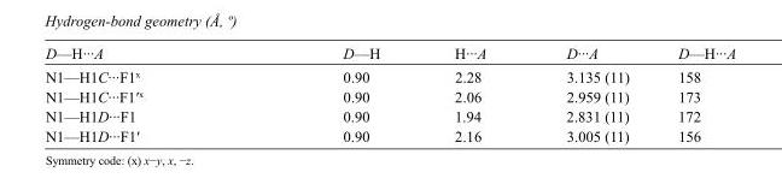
<table><tbody><tr><td>D—H···A</td><td>D—H</td><td>H···A</td><td>D···A</td><td>D—H···A</td></tr><tr><td>N1—H1C···F1<sup>x</sup></td><td>0.90</td><td>2.28</td><td>3.135 (11)</td><td>158</td></tr><tr><td>N1—H1C···F1′<sup>x</sup></td><td>0.90</td><td>2.06</td><td>2.959 (11)</td><td>173</td></tr><tr><td>N1—H1D···F1</td><td>0.90</td><td>1.94</td><td>2.831 (11)</td><td>172</td></tr><tr><td>N1—H1D···F1′</td><td>0.90</td><td>2.16</td><td>3.005 (11)</td><td>156</td></tr></tbody></table>